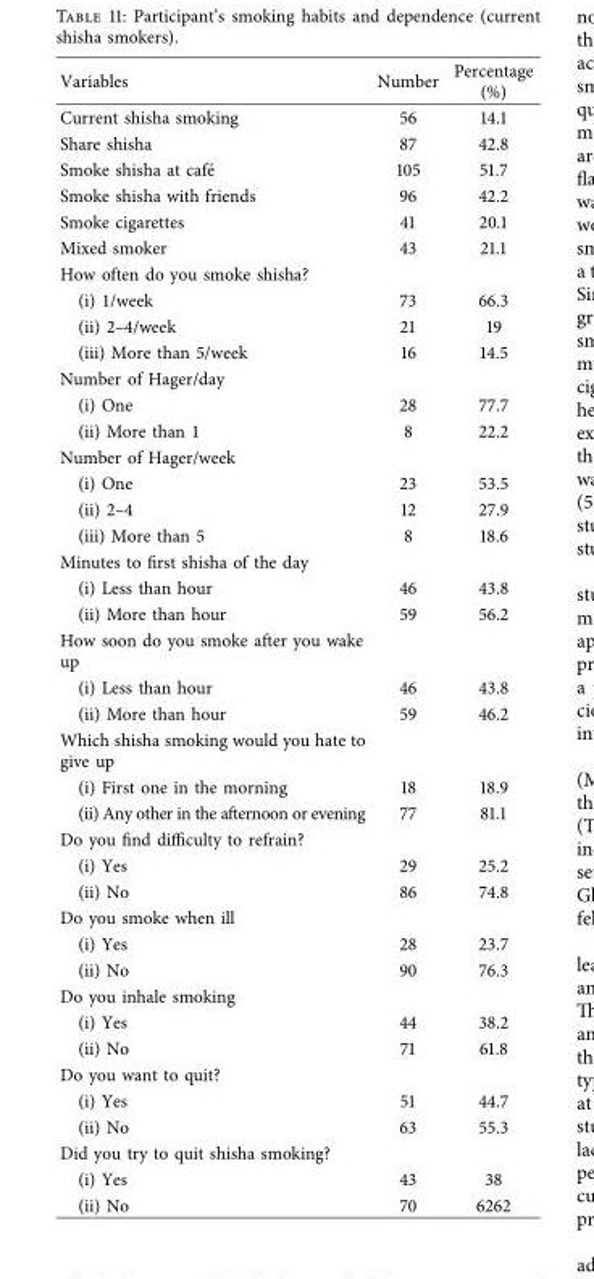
<table><thead><tr><td>Variables</td><td>Number</td><td>Percentage (%)</td></tr></thead><tbody><tr><td>Current shisha smoking</td><td>56</td><td>14.1</td></tr><tr><td>Share shisha</td><td>87</td><td>42.8</td></tr><tr><td>Smoke shisha at caf´e</td><td>105</td><td>51.7</td></tr><tr><td>Smoke shisha with friends</td><td>96</td><td>42.2</td></tr><tr><td>Smoke cigarettes</td><td>41</td><td>20.1</td></tr><tr><td>Mixed smoker</td><td>43</td><td>21.1</td></tr><tr><td colspan="3">How often do you smoke shisha?</td></tr><tr><td>(i) 1/week</td><td>73</td><td>66.3</td></tr><tr><td>(ii) 2–4/week</td><td>21</td><td>19</td></tr><tr><td>(iii) More than 5/week</td><td>16</td><td>14.5</td></tr><tr><td colspan="3">Number of Hager/day</td></tr><tr><td>(i) One</td><td>28</td><td>77.7</td></tr><tr><td>(ii) More than 1</td><td>8</td><td>22.2</td></tr><tr><td colspan="3">Number of Hager/week</td></tr><tr><td>(i) One</td><td>23</td><td>53.5</td></tr><tr><td>(ii) 2–4</td><td>12</td><td>27.9</td></tr><tr><td>(iii) More than 5</td><td>8</td><td>18.6</td></tr><tr><td colspan="3">Minutes to frst shisha of the day</td></tr><tr><td>(i) Less than hour</td><td>46</td><td>43.8</td></tr><tr><td>(ii) More than hour</td><td>59</td><td>56.2</td></tr><tr><td colspan="3">How soon do you smoke after you wake up</td></tr><tr><td>(i) Less than hour</td><td>46</td><td>43.8</td></tr><tr><td>(ii) More than hour</td><td>59</td><td>46.2</td></tr><tr><td colspan="3">Which shisha smoking would you hate to give up</td></tr><tr><td>(i) First one in the morning</td><td>18</td><td>18.9</td></tr><tr><td>(ii) Any other in the afternoon or evening</td><td>77</td><td>81.1</td></tr><tr><td colspan="3">Do you fnd difculty to refrain?</td></tr><tr><td>(i) Yes</td><td>29</td><td>25.2</td></tr><tr><td>(ii) No</td><td>86</td><td>74.8</td></tr><tr><td colspan="3">Do you smoke when ill</td></tr><tr><td>(i) Yes</td><td>28</td><td>23.7</td></tr><tr><td>(ii) No</td><td>90</td><td>76.3</td></tr><tr><td colspan="3">Do you inhale smoking</td></tr><tr><td>(i) Yes</td><td>44</td><td>38.2</td></tr><tr><td>(ii) No</td><td>71</td><td>61.8</td></tr><tr><td colspan="3">Do you want to quit?</td></tr><tr><td>(i) Yes</td><td>51</td><td>44.7</td></tr><tr><td>(ii) No</td><td>63</td><td>55.3</td></tr><tr><td colspan="3">Did you try to quit shisha smoking?</td></tr><tr><td>(i) Yes</td><td>43</td><td>38</td></tr><tr><td>(ii) No</td><td>70</td><td>6262</td></tr></tbody></table>